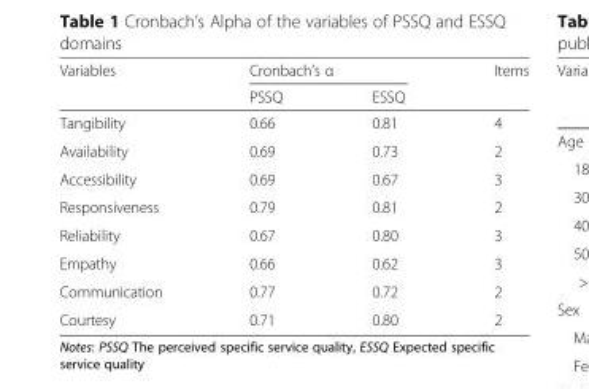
<table><thead><tr><td rowspan="2">Variables</td><td colspan="2">Cronbach’s α</td><td rowspan="2">Items</td></tr><tr><td>PSSQ</td><td>ESSQ</td></tr></thead><tbody><tr><td>Tangibility</td><td>0.66</td><td>0.81</td><td>4</td></tr><tr><td>Availability</td><td>0.69</td><td>0.73</td><td>2</td></tr><tr><td>Accessibility</td><td>0.69</td><td>0.67</td><td>3</td></tr><tr><td>Responsiveness</td><td>0.79</td><td>0.81</td><td>2</td></tr><tr><td>Reliability</td><td>0.67</td><td>0.80</td><td>3</td></tr><tr><td>Empathy</td><td>0.66</td><td>0.62</td><td>3</td></tr><tr><td>Communication</td><td>0.77</td><td>0.72</td><td>2</td></tr><tr><td>Courtesy</td><td>0.71</td><td>0.80</td><td>2</td></tr></tbody></table>